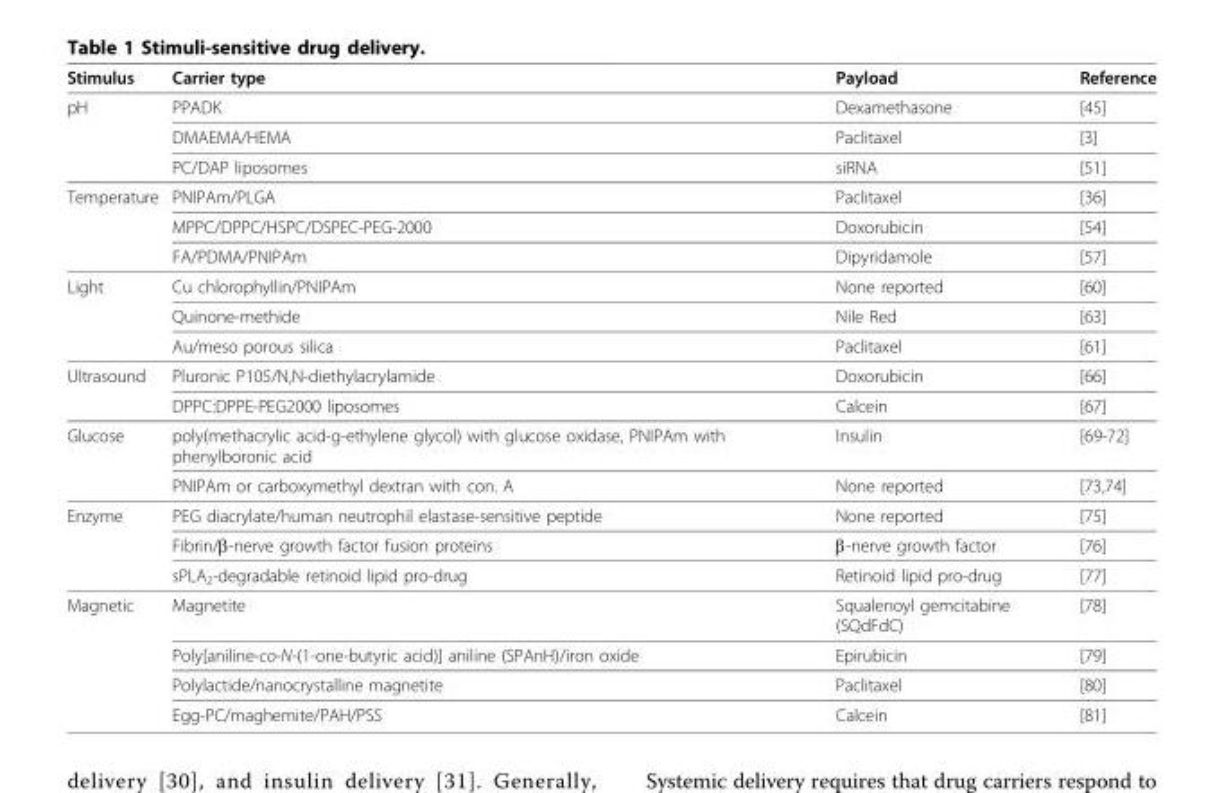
<table><thead><tr><td>Stimulus</td><td>Carrier type</td><td>Payload</td><td>Reference</td></tr></thead><tbody><tr><td rowspan="3">pH</td><td>PPADK</td><td>Dexamethasone</td><td>[45]</td></tr><tr><td>DMAEMA/HEMA</td><td>Paclitaxel</td><td>[3]</td></tr><tr><td>PC/DAP liposomes</td><td>siRNA</td><td>[51]</td></tr><tr><td rowspan="3">Temperature</td><td>PNIPAm/PLGA</td><td>Paclitaxel</td><td>[36]</td></tr><tr><td>MPPC/DPPC/HSPC/DSPEC-PEG-2000</td><td>Doxorubicin</td><td>[54]</td></tr><tr><td>FA/PDMA/PNIPAm</td><td>Dipyridamole</td><td>[57]</td></tr><tr><td rowspan="3">Light</td><td>Cu chlorophyllin/PNIPAm</td><td>None reported</td><td>[60]</td></tr><tr><td>Quinone-methide</td><td>Nile Red</td><td>[63]</td></tr><tr><td>Au/meso porous silica</td><td>Paclitaxel</td><td>[61]</td></tr><tr><td rowspan="2">Ultrasound</td><td>Pluronic P105/N,N-diethylacrylamide</td><td>Doxorubicin</td><td>[66]</td></tr><tr><td>DPPC:DPPE-PEG2000 liposomes</td><td>Calcein</td><td>[67]</td></tr><tr><td rowspan="2">Glucose</td><td>poly(methacrylic acid-g-ethylene glycol) with glucose oxidase, PNIPAm with phenylboronic acid</td><td>Insulin</td><td>[69-72]</td></tr><tr><td>PNIPAm or carboxymethyl dextran with con. A</td><td>None reported</td><td>[73,74]</td></tr><tr><td rowspan="3">Enzyme</td><td>PEG diacrylate/human neutrophil elastase-sensitive peptide</td><td>None reported</td><td>[75]</td></tr><tr><td>Fibrin/β-nerve growth factor fusion proteins</td><td>β-nerve growth factor</td><td>[76]</td></tr><tr><td>sPLA<sub>2</sub>-degradable retinoid lipid pro-drug</td><td>Retinoid lipid pro-drug</td><td>[77]</td></tr><tr><td rowspan="4">Magnetic</td><td>Magnetite</td><td>Squalenoyl gemcitabine (SQdFdC)</td><td>[78]</td></tr><tr><td>Poly[aniline-co-N-(1-one-butyric acid)] aniline (SPAnH)/iron oxide</td><td>Epirubicin</td><td>[79]</td></tr><tr><td>Polylactide/nanocrystalline magnetite</td><td>Paclitaxel</td><td>[80]</td></tr><tr><td>Egg-PC/maghemite/PAH/PSS</td><td>Calcein</td><td>[81]</td></tr></tbody></table>